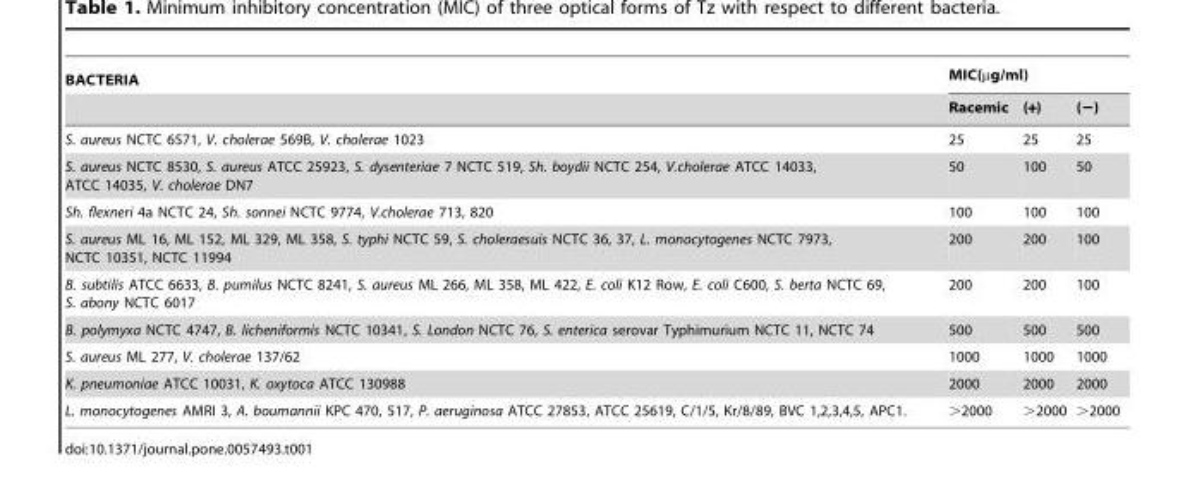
<table><thead><tr><td rowspan="2">BACTERIA</td><td colspan="3">MIC(µg/ml)</td></tr><tr><td>Racemic</td><td>(+)</td><td>(−)</td></tr></thead><tbody><tr><td>S. aureus NCTC 6571, V. cholerae 569B, V. cholerae 1023</td><td>25</td><td>25</td><td>25</td></tr><tr><td>S. aureus NCTC 8530, S. aureus ATCC 25923, S. dysenteriae 7 NCTC 519, Sh. boydii NCTC 254, V.cholerae ATCC 14033, ATCC 14035, V. cholerae DN7</td><td>50</td><td>100</td><td>50</td></tr><tr><td>Sh. flexneri 4a NCTC 24, Sh. sonnei NCTC 9774, V.cholerae 713, 820</td><td>100</td><td>100</td><td>100</td></tr><tr><td>S. aureus ML 16, ML 152, ML 329, ML 358, S. typhi NCTC 59, S. choleraesuis NCTC 36, 37, L. monocytogenes NCTC 7973, NCTC 10351, NCTC 11994</td><td>200</td><td>200</td><td>100</td></tr><tr><td>B. subtilis ATCC 6633, B. pumilus NCTC 8241, S. aureus ML 266, ML 358, ML 422, E. coli K12 Row, E. coli C600, S. berta NCTC 69, S. abony NCTC 6017</td><td>200</td><td>200</td><td>100</td></tr><tr><td>B. polymyxa NCTC 4747, B. licheniformis NCTC 10341, S. London NCTC 76, S. enterica serovar Typhimurium NCTC 11, NCTC 74</td><td>500</td><td>500</td><td>500</td></tr><tr><td>S. aureus ML 277, V. cholerae 137/62</td><td>1000</td><td>1000</td><td>1000</td></tr><tr><td>K. pneumoniae ATCC 10031, K. oxytoca ATCC 130988</td><td>2000</td><td>2000</td><td>2000</td></tr><tr><td>L. monocytogenes AMRI 3, A. boumannii KPC 470, 517, P. aeruginosa ATCC 27853, ATCC 25619, C/1/5, Kr/8/89, BVC 1,2,3,4,5, APC1.</td><td>&gt;2000</td><td>&gt;2000</td><td>&gt;2000</td></tr></tbody></table>